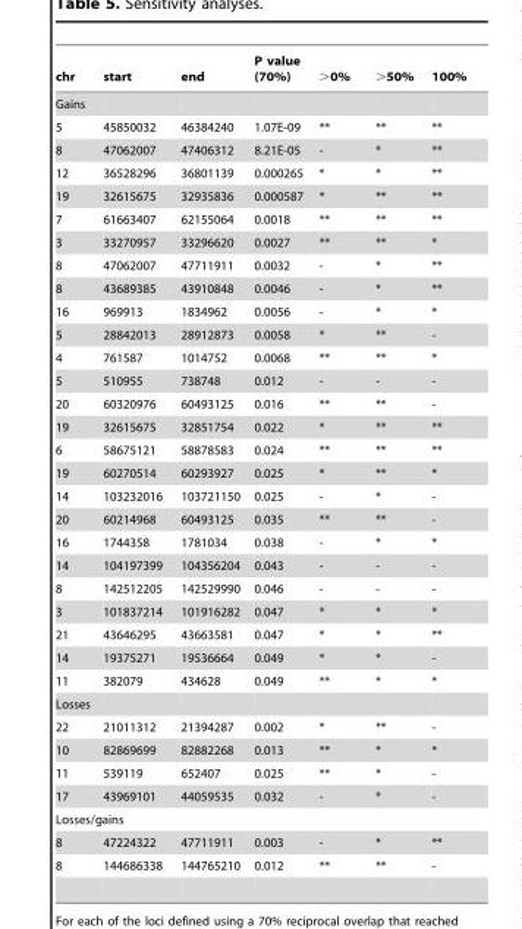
<table><thead><tr><td>chr</td><td>start</td><td>end</td><td>P value (70%)</td><td>&gt;0%</td><td>&gt;50%</td><td>100%</td></tr></thead><tbody><tr><td colspan="7">Gains</td></tr><tr><td>5</td><td>45850032</td><td>46384240</td><td>1.07E-09</td><td>**</td><td>**</td><td>**</td></tr><tr><td>8</td><td>47062007</td><td>47406312</td><td>8.21E-05</td><td>-</td><td>*</td><td>**</td></tr><tr><td>12</td><td>36528296</td><td>36801139</td><td>0.000265</td><td>*</td><td>*</td><td>**</td></tr><tr><td>19</td><td>32615675</td><td>32935836</td><td>0.000587</td><td>*</td><td>**</td><td>**</td></tr><tr><td>7</td><td>61663407</td><td>62155064</td><td>0.0018</td><td>**</td><td>**</td><td>**</td></tr><tr><td>3</td><td>33270957</td><td>33296620</td><td>0.0027</td><td>**</td><td>**</td><td>*</td></tr><tr><td>8</td><td>47062007</td><td>47711911</td><td>0.0032</td><td>-</td><td>*</td><td>**</td></tr><tr><td>8</td><td>43689385</td><td>43910848</td><td>0.0046</td><td>-</td><td>*</td><td>**</td></tr><tr><td>16</td><td>969913</td><td>1834962</td><td>0.0056</td><td>-</td><td>*</td><td>*</td></tr><tr><td>5</td><td>28842013</td><td>28912873</td><td>0.0058</td><td>*</td><td>**</td><td>-</td></tr><tr><td>4</td><td>761587</td><td>1014752</td><td>0.0068</td><td>**</td><td>**</td><td>*</td></tr><tr><td>5</td><td>510955</td><td>738748</td><td>0.012</td><td>-</td><td>-</td><td>-</td></tr><tr><td>20</td><td>60320976</td><td>60493125</td><td>0.016</td><td>**</td><td>**</td><td>-</td></tr><tr><td>19</td><td>32615675</td><td>32851754</td><td>0.022</td><td>*</td><td>**</td><td>**</td></tr><tr><td>6</td><td>58675121</td><td>58878583</td><td>0.024</td><td>**</td><td>**</td><td>**</td></tr><tr><td>19</td><td>60270514</td><td>60293927</td><td>0.025</td><td>*</td><td>**</td><td>*</td></tr><tr><td>14</td><td>103232016</td><td>103721150</td><td>0.025</td><td>-</td><td>*</td><td>-</td></tr><tr><td>20</td><td>60214968</td><td>60493125</td><td>0.035</td><td>**</td><td>**</td><td>-</td></tr><tr><td>16</td><td>1744358</td><td>1781034</td><td>0.038</td><td>-</td><td>*</td><td>*</td></tr><tr><td>14</td><td>104197399</td><td>104356204</td><td>0.043</td><td>-</td><td>-</td><td>-</td></tr><tr><td>8</td><td>142512205</td><td>142529990</td><td>0.046</td><td>-</td><td>-</td><td>-</td></tr><tr><td>3</td><td>101837214</td><td>101916282</td><td>0.047</td><td>*</td><td>*</td><td>*</td></tr><tr><td>21</td><td>43646295</td><td>43663581</td><td>0.047</td><td>*</td><td>*</td><td>**</td></tr><tr><td>14</td><td>19375271</td><td>19536664</td><td>0.049</td><td>*</td><td>*</td><td>-</td></tr><tr><td>11</td><td>382079</td><td>434628</td><td>0.049</td><td>**</td><td>*</td><td>*</td></tr><tr><td colspan="7">Losses</td></tr><tr><td>22</td><td>21011312</td><td>21394287</td><td>0.002</td><td>*</td><td>**</td><td>-</td></tr><tr><td>10</td><td>82869699</td><td>82882268</td><td>0.013</td><td>**</td><td>*</td><td>*</td></tr><tr><td>11</td><td>539119</td><td>652407</td><td>0.025</td><td>**</td><td>*</td><td>-</td></tr><tr><td>17</td><td>43969101</td><td>44059535</td><td>0.032</td><td>-</td><td>*</td><td>-</td></tr><tr><td colspan="7">Losses/gains</td></tr><tr><td>8</td><td>47224322</td><td>47711911</td><td>0.003</td><td>-</td><td>*</td><td>**</td></tr><tr><td>8</td><td>144686338</td><td>144765210</td><td>0.012</td><td>**</td><td>**</td><td>-</td></tr></tbody></table>